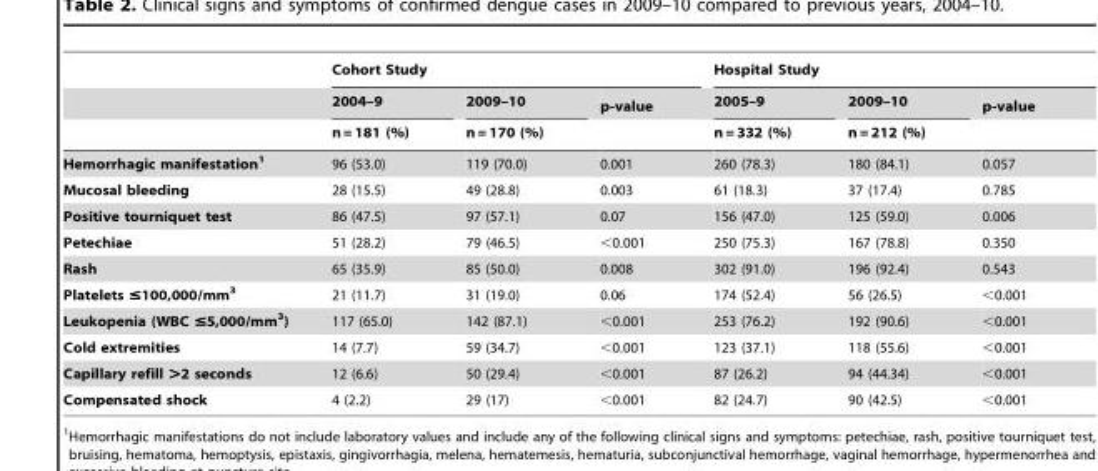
<table><thead><tr><td rowspan="3"></td><td colspan="3">Cohort Study</td><td colspan="3">Hospital Study</td></tr><tr><td rowspan="2">2004–9 n = 181 (%)</td><td rowspan="2">2009–10 n = 170 (%)</td><td rowspan="2">p-value</td><td rowspan="2">2005–9 n = 332 (%)</td><td rowspan="2">2009–10 n = 212 (%)</td><td rowspan="2">p-value</td></tr><tr></tr></thead><tbody><tr><td>Hemorrhagic manifestation1</td><td>96 (53.0)</td><td>119 (70.0)</td><td>0.001</td><td>260 (78.3)</td><td>180 (84.1)</td><td>0.057</td></tr><tr><td>Mucosal bleeding</td><td>28 (15.5)</td><td>49 (28.8)</td><td>0.003</td><td>61 (18.3)</td><td>37 (17.4)</td><td>0.785</td></tr><tr><td>Positive tourniquet test</td><td>86 (47.5)</td><td>97 (57.1)</td><td>0.07</td><td>156 (47.0)</td><td>125 (59.0)</td><td>0.006</td></tr><tr><td>Petechiae</td><td>51 (28.2)</td><td>79 (46.5)</td><td>&lt;0.001</td><td>250 (75.3)</td><td>167 (78.8)</td><td>0.350</td></tr><tr><td>Rash</td><td>65 (35.9)</td><td>85 (50.0)</td><td>0.008</td><td>302 (91.0)</td><td>196 (92.4)</td><td>0.543</td></tr><tr><td>Platelets ≤100,000/mm<sup>3</sup></td><td>21 (11.7)</td><td>31 (19.0)</td><td>0.06</td><td>174 (52.4)</td><td>56 (26.5)</td><td>&lt;0.001</td></tr><tr><td>Leukopenia (WBC ≤5,000/mm<sup>3</sup>)</td><td>117 (65.0)</td><td>142 (87.1)</td><td>&lt;0.001</td><td>253 (76.2)</td><td>192 (90.6)</td><td>&lt;0.001</td></tr><tr><td>Cold extremities</td><td>14 (7.7)</td><td>59 (34.7)</td><td>&lt;0.001</td><td>123 (37.1)</td><td>118 (55.6)</td><td>&lt;0.001</td></tr><tr><td>Capillary refill &gt;2 seconds</td><td>12 (6.6)</td><td>50 (29.4)</td><td>&lt;0.001</td><td>87 (26.2)</td><td>94 (44.34)</td><td>&lt;0.001</td></tr><tr><td>Compensated shock</td><td>4 (2.2)</td><td>29 (17)</td><td>&lt;0.001</td><td>82 (24.7)</td><td>90 (42.5)</td><td>&lt;0.001</td></tr></tbody></table>